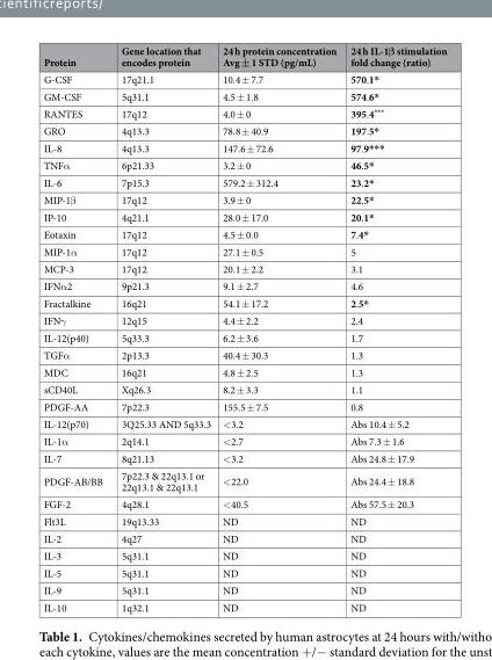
<table><thead><tr><td>Protein</td><td>Gene location that encodes protein</td><td>24 h protein concentration Avg ± 1 STD (pg/mL)</td><td>24 h IL-1β stimulation fold change (ratio)</td></tr></thead><tbody><tr><td>G-CSF</td><td>17q21.1</td><td>10.4 ± 7.7</td><td>570.1*</td></tr><tr><td>GM-CSF</td><td>5q31.1</td><td>4.5 ± 1.8</td><td>574.6*</td></tr><tr><td>RANTES</td><td>17q12</td><td>4.0 ± 0</td><td>395.4***</td></tr><tr><td>GRO</td><td>4q13.3</td><td>78.8 ± 40.9</td><td>197.5*</td></tr><tr><td>IL-8</td><td>4q13.3</td><td>147.6 ± 72.6</td><td>97.9***</td></tr><tr><td>TNFα</td><td>6p21.33</td><td>3.2 ± 0</td><td>46.5*</td></tr><tr><td>IL-6</td><td>7p15.3</td><td>579.2 ± 312.4</td><td>23.2*</td></tr><tr><td>MIP-1β</td><td>17q12</td><td>3.9 ± 0</td><td>22.5*</td></tr><tr><td>IP-10</td><td>4q21.1</td><td>28.0 ± 17.0</td><td>20.1*</td></tr><tr><td>Eotaxin</td><td>17q12</td><td>4.5 ± 0.0</td><td>7.4*</td></tr><tr><td>MIP-1α</td><td>17q12</td><td>27.1 ± 0.5</td><td>5</td></tr><tr><td>MCP-3</td><td>17q12</td><td>20.1 ± 2.2</td><td>3.1</td></tr><tr><td>IFNα2</td><td>9p21.3</td><td>9.1 ± 2.7</td><td>4.6</td></tr><tr><td>Fractalkine</td><td>16q21</td><td>54.1 ± 17.2</td><td>2.5*</td></tr><tr><td>IFNγ</td><td>12q15</td><td>4.4 ± 2.2</td><td>2.4</td></tr><tr><td>IL-12(p40)</td><td>5q33.3</td><td>6.2 ± 3.6</td><td>1.7</td></tr><tr><td>TGFα</td><td>2p13.3</td><td>40.4 ± 30.3</td><td>1.3</td></tr><tr><td>MDC</td><td>16q21</td><td>4.8 ± 2.5</td><td>1.3</td></tr><tr><td>sCD40L</td><td>Xq26.3</td><td>8.2 ± 3.3</td><td>1.1</td></tr><tr><td>PDGF-AA</td><td>7p22.3</td><td>155.5 ± 7.5</td><td>0.8</td></tr><tr><td>IL-12(p70)</td><td>3Q25.33 AND 5q33.3</td><td>&lt;3.2</td><td>Abs 10.4 ± 5.2</td></tr><tr><td>IL-1α</td><td>2q14.1</td><td>&lt;2.7</td><td>Abs 7.3 ± 1.6</td></tr><tr><td>IL-7</td><td>8q21.13</td><td>&lt;3.2</td><td>Abs 24.8 ± 17.9</td></tr><tr><td>PDGF-AB/BB</td><td>7p22.3 &amp; 22q13.1 or 22q13.1 &amp; 22q13.1</td><td>&lt;22.0</td><td>Abs 24.4 ± 18.8</td></tr><tr><td>FGF-2</td><td>4q28.1</td><td>&lt;40.5</td><td>Abs 57.5 ± 20.3</td></tr><tr><td>Flt3L</td><td>19q13.33</td><td>ND</td><td>ND</td></tr><tr><td>IL-2</td><td>4q27</td><td>ND</td><td>ND</td></tr><tr><td>IL-3</td><td>5q31.1</td><td>ND</td><td>ND</td></tr><tr><td>IL-5</td><td>5q31.1</td><td>ND</td><td>ND</td></tr><tr><td>IL-9</td><td>5q31.1</td><td>ND</td><td>ND</td></tr><tr><td>IL-10</td><td>1q32.1</td><td>ND</td><td>ND</td></tr></tbody></table>